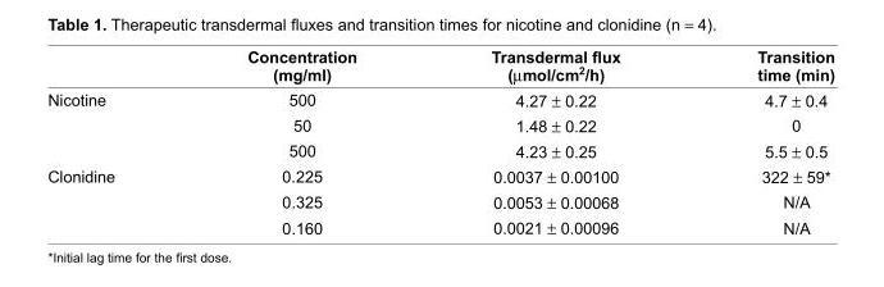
<table><thead><tr><td></td><td>Concentration (mg/ml)</td><td>Transdermal fl ux (μmol/cm<sup>2</sup>/h)</td><td>Transition time (min)</td></tr></thead><tbody><tr><td rowspan="3">Nicotine</td><td>500</td><td>4.27 ± 0.22</td><td>4.7 ± 0.4</td></tr><tr><td>50</td><td>1.48 ± 0.22</td><td>0</td></tr><tr><td>500</td><td>4.23 ± 0.25</td><td>5.5 ± 0.5</td></tr><tr><td rowspan="3">Clonidine</td><td>0.225</td><td>0.0037 ± 0.00100</td><td>322 ± 59*</td></tr><tr><td>0.325</td><td>0.0053 ± 0.00068</td><td>N/A</td></tr><tr><td>0.160</td><td>0.0021 ± 0.00096</td><td>N/A</td></tr></tbody></table>